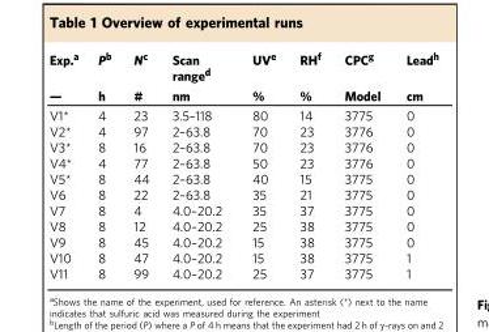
<table><thead><tr><td rowspan="2">Exp.<sup>a</sup> —</td><td rowspan="2">P<sup>b</sup> h</td><td rowspan="2">N<sup>c</sup> #</td><td rowspan="2">Scan range<sup>d</sup> nm</td><td rowspan="2">UV<sup>e</sup> %</td><td rowspan="2">RH<sup>f</sup> %</td><td rowspan="2">CPC<sup>g</sup> Model</td><td rowspan="2">Lead<sup>h</sup> cm</td></tr><tr></tr></thead><tbody><tr><td>V1*</td><td>4</td><td>23</td><td>3.5–118</td><td>80</td><td>14</td><td>3775</td><td>0</td></tr><tr><td>V2*</td><td>4</td><td>97</td><td>2–63.8</td><td>70</td><td>23</td><td>3776</td><td>0</td></tr><tr><td>V3*</td><td>8</td><td>16</td><td>2–63.8</td><td>70</td><td>23</td><td>3776</td><td>0</td></tr><tr><td>V4*</td><td>4</td><td>77</td><td>2–63.8</td><td>50</td><td>23</td><td>3776</td><td>0</td></tr><tr><td>V5*</td><td>8</td><td>44</td><td>2–63.8</td><td>40</td><td>15</td><td>3775</td><td>0</td></tr><tr><td>V6</td><td>8</td><td>22</td><td>2–63.8</td><td>35</td><td>21</td><td>3775</td><td>0</td></tr><tr><td>V7</td><td>8</td><td>4</td><td>4.0–20.2</td><td>35</td><td>37</td><td>3775</td><td>0</td></tr><tr><td>V8</td><td>8</td><td>12</td><td>4.0–20.2</td><td>25</td><td>38</td><td>3775</td><td>0</td></tr><tr><td>V9</td><td>8</td><td>45</td><td>4.0–20.2</td><td>15</td><td>38</td><td>3775</td><td>0</td></tr><tr><td>V10</td><td>8</td><td>47</td><td>4.0–20.2</td><td>15</td><td>38</td><td>3775</td><td>1</td></tr><tr><td>V11</td><td>8</td><td>99</td><td>4.0–20.2</td><td>25</td><td>37</td><td>3775</td><td>1</td></tr></tbody></table>